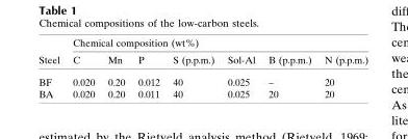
<table><thead><tr><td rowspan="2">Steel</td><td colspan="7">Chemical composition (wt%)</td></tr><tr><td>C</td><td>Mn</td><td>P</td><td>S (p.p.m.)</td><td>Sol-Al</td><td>B (p.p.m.)</td><td>N (p.p.m.)</td></tr></thead><tbody><tr><td>BF</td><td>0.020</td><td>0.20</td><td>0.012</td><td>40</td><td>0.025</td><td>–</td><td>20</td></tr><tr><td>BA</td><td>0.020</td><td>0.20</td><td>0.011</td><td>40</td><td>0.025</td><td>20</td><td>20</td></tr></tbody></table>